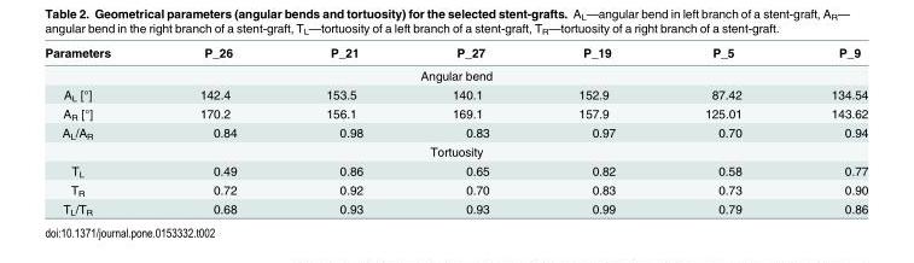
<table><thead><tr><td>Parameters</td><td>P_26</td><td>P_21</td><td>P_27</td><td>P_19</td><td>P_5</td><td>P_9</td></tr></thead><tbody><tr><td colspan="7">Angular bend</td></tr><tr><td>A<sub>L</sub> [°]</td><td>142.4</td><td>153.5</td><td>140.1</td><td>152.9</td><td>87.42</td><td>134.54</td></tr><tr><td>A<sub>R</sub> [°]</td><td>170.2</td><td>156.1</td><td>169.1</td><td>157.9</td><td>125.01</td><td>143.62</td></tr><tr><td>A<sub>L</sub>/A<sub>R</sub></td><td>0.84</td><td>0.98</td><td>0.83</td><td>0.97</td><td>0.70</td><td>0.94</td></tr><tr><td colspan="7">Tortuosity</td></tr><tr><td>T<sub>L</sub></td><td>0.49</td><td>0.86</td><td>0.65</td><td>0.82</td><td>0.58</td><td>0.77</td></tr><tr><td>T<sub>R</sub></td><td>0.72</td><td>0.92</td><td>0.70</td><td>0.83</td><td>0.73</td><td>0.90</td></tr><tr><td>T<sub>L</sub>/T<sub>R</sub></td><td>0.68</td><td>0.93</td><td>0.93</td><td>0.99</td><td>0.79</td><td>0.86</td></tr></tbody></table>